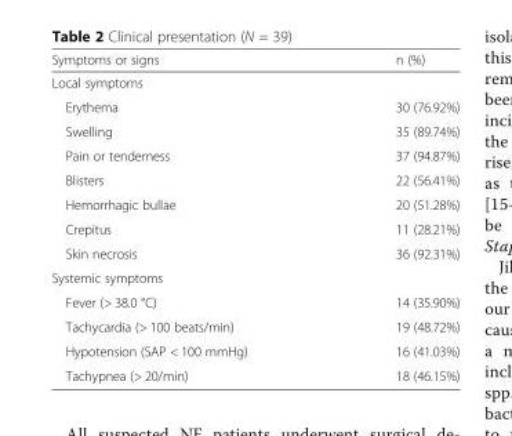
<table><thead><tr><td>Symptoms or signs</td><td>n (%)</td></tr></thead><tbody><tr><td colspan="2">Local symptoms</td></tr><tr><td>Erythema</td><td>30 (76.92%)</td></tr><tr><td>Swelling</td><td>35 (89.74%)</td></tr><tr><td>Pain or tenderness</td><td>37 (94.87%)</td></tr><tr><td>Blisters</td><td>22 (56.41%)</td></tr><tr><td>Hemorrhagic bullae</td><td>20 (51.28%)</td></tr><tr><td>Crepitus</td><td>11 (28.21%)</td></tr><tr><td>Skin necrosis</td><td>36 (92.31%)</td></tr><tr><td colspan="2">Systemic symptoms</td></tr><tr><td>Fever (&gt; 38.0 °C)</td><td>14 (35.90%)</td></tr><tr><td>Tachycardia (&gt; 100 beats/min)</td><td>19 (48.72%)</td></tr><tr><td>Hypotension (SAP &lt; 100 mmHg)</td><td>16 (41.03%)</td></tr><tr><td>Tachypnea (&gt; 20/min)</td><td>18 (46.15%)</td></tr></tbody></table>